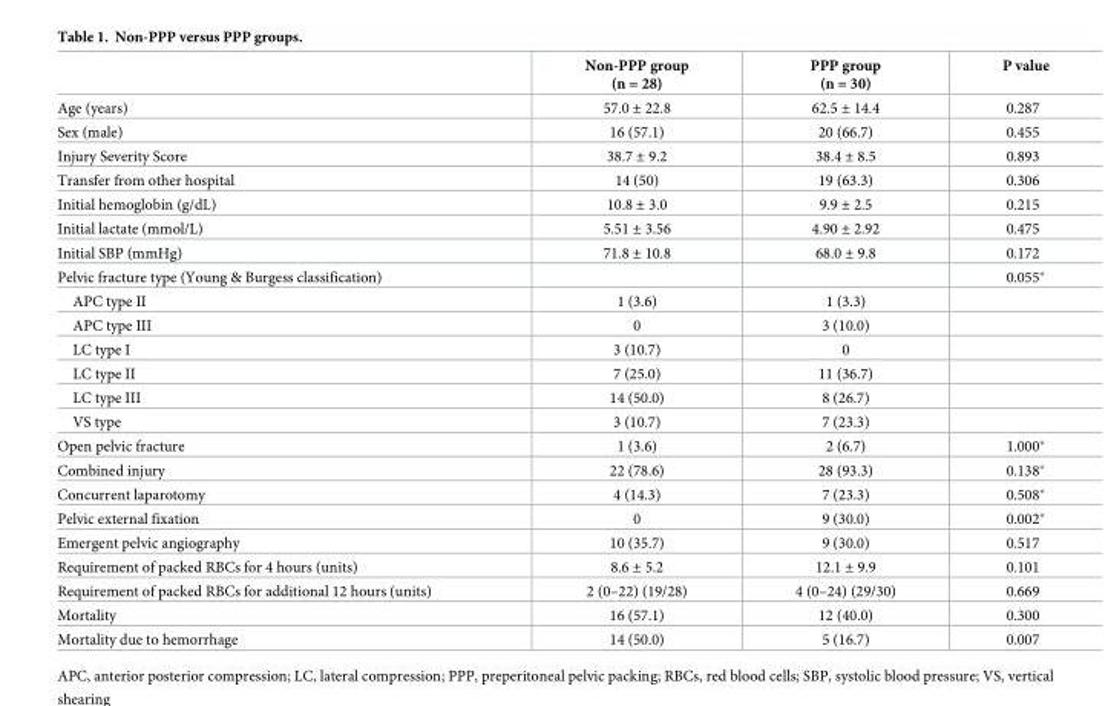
<table><thead><tr><td></td><td>Non-PPP group (n = 28)</td><td>PPP group (n = 30)</td><td>P value</td></tr></thead><tbody><tr><td>Age (years)</td><td>57.0 ± 22.8</td><td>62.5 ± 14.4</td><td>0.287</td></tr><tr><td>Sex (male)</td><td>16 (57.1)</td><td>20 (66.7)</td><td>0.455</td></tr><tr><td>Injury Severity Score</td><td>38.7 ± 9.2</td><td>38.4 ± 8.5</td><td>0.893</td></tr><tr><td>Transfer from other hospital</td><td>14 (50)</td><td>19 (63.3)</td><td>0.306</td></tr><tr><td>Initial hemoglobin (g/dL)</td><td>10.8 ± 3.0</td><td>9.9 ± 2.5</td><td>0.215</td></tr><tr><td>Initial lactate (mmol/L)</td><td>5.51 ± 3.56</td><td>4.90 ± 2.92</td><td>0.475</td></tr><tr><td>Initial SBP (mmHg)</td><td>71.8 ± 10.8</td><td>68.0 ± 9.8</td><td>0.172</td></tr><tr><td>Pelvic fracture type (Young &amp; Burgess classification)</td><td></td><td></td><td>0.055*</td></tr><tr><td>APC type II</td><td>1 (3.6)</td><td>1 (3.3)</td><td></td></tr><tr><td>APC type III</td><td>0</td><td>3 (10.0)</td><td></td></tr><tr><td>LC type I</td><td>3 (10.7)</td><td>0</td><td></td></tr><tr><td>LC type II</td><td>7 (25.0)</td><td>11 (36.7)</td><td></td></tr><tr><td>LC type III</td><td>14 (50.0)</td><td>8 (26.7)</td><td></td></tr><tr><td>VS type</td><td>3 (10.7)</td><td>7 (23.3)</td><td></td></tr><tr><td>Open pelvic fracture</td><td>1 (3.6)</td><td>2 (6.7)</td><td>1.000*</td></tr><tr><td>Combined injury</td><td>22 (78.6)</td><td>28 (93.3)</td><td>0.138*</td></tr><tr><td>Concurrent laparotomy</td><td>4 (14.3)</td><td>7 (23.3)</td><td>0.508*</td></tr><tr><td>Pelvic external fixation</td><td>0</td><td>9 (30.0)</td><td>0.002*</td></tr><tr><td>Emergent pelvic angiography</td><td>10 (35.7)</td><td>9 (30.0)</td><td>0.517</td></tr><tr><td>Requirement of packed RBCs for 4 hours (units)</td><td>8.6 ± 5.2</td><td>12.1 ± 9.9</td><td>0.101</td></tr><tr><td>Requirement of packed RBCs for additional 12 hours (units)</td><td>2 (0–22) (19/28)</td><td>4 (0–24) (29/30)</td><td>0.669</td></tr><tr><td>Mortality</td><td>16 (57.1)</td><td>12 (40.0)</td><td>0.300</td></tr><tr><td>Mortality due to hemorrhage</td><td>14 (50.0)</td><td>5 (16.7)</td><td>0.007</td></tr></tbody></table>